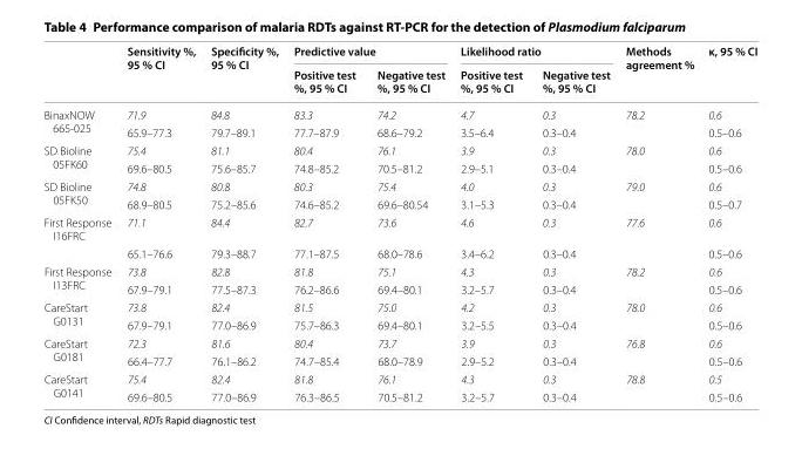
<table><thead><tr><td rowspan="2"></td><td rowspan="2">Sensitivity %, 95 % CI</td><td rowspan="2">Specificity %, 95 % CI</td><td colspan="2">Predictive value</td><td colspan="2">Likelihood ratio</td><td rowspan="2">Methods agreement %</td><td rowspan="2">κ, 95 % CI</td></tr><tr><td>Positive test %, 95 % CI</td><td>Negative test %, 95 % CI</td><td>Positive test %, 95 % CI</td><td>Negative test %, 95 % CI</td></tr></thead><tbody><tr><td rowspan="2">BinaxNOW 665-025</td><td>71.9</td><td>84.8</td><td>83.3</td><td>74.2</td><td>4.7</td><td>0.3</td><td rowspan="2">78.2</td><td>0.6</td></tr><tr><td>65.9–77.3</td><td>79.7–89.1</td><td>77.7–87.9</td><td>68.6–79.2</td><td>3.5–6.4</td><td>0.3–0.4</td><td>0.5–0.6</td></tr><tr><td rowspan="2">SD Bioline 05FK60</td><td>75.4</td><td>81.1</td><td>80.4</td><td>76.1</td><td>3.9</td><td>0.3</td><td rowspan="2">78.0</td><td>0.6</td></tr><tr><td>69.6–80.5</td><td>75.6–85.7</td><td>74.8–85.2</td><td>70.5–81.2</td><td>2.9–5.1</td><td>0.3–0.4</td><td>0.5–0.6</td></tr><tr><td rowspan="2">SD Bioline 05FK50</td><td>74.8</td><td>80.8</td><td>80.3</td><td>75.4</td><td>4.0</td><td>0.3</td><td rowspan="2">79.0</td><td>0.6</td></tr><tr><td>68.9–80.5</td><td>75.2–85.6</td><td>74.6–85.2</td><td>69.6–80.54</td><td>3.1–5.3</td><td>0.3–0.4</td><td>0.5–0.7</td></tr><tr><td rowspan="2">First Response I16FRC</td><td>71.1</td><td>84.4</td><td>82.7</td><td>73.6</td><td>4.6</td><td>0.3</td><td rowspan="2">77.6</td><td>0.6</td></tr><tr><td>65.1–76.6</td><td>79.3–88.7</td><td>77.1–87.5</td><td>68.0–78.6</td><td>3.4–6.2</td><td>0.3–0.4</td><td>0.5–0.6</td></tr><tr><td rowspan="2">First Response I13FRC</td><td>73.8</td><td>82.8</td><td>81.8</td><td>75.1</td><td>4.3</td><td>0.3</td><td rowspan="2">78.2</td><td>0.6</td></tr><tr><td>67.9–79.1</td><td>77.5–87.3</td><td>76.2–86.6</td><td>69.4–80.1</td><td>3.2–5.7</td><td>0.3–0.4</td><td>0.5–0.6</td></tr><tr><td rowspan="2">CareStart G0131</td><td>73.8</td><td>82.4</td><td>81.5</td><td>75.0</td><td>4.2</td><td>0.3</td><td rowspan="2">78.0</td><td>0.6</td></tr><tr><td>67.9–79.1</td><td>77.0–86.9</td><td>75.7–86.3</td><td>69.4–80.1</td><td>3.2–5.5</td><td>0.3–0.4</td><td>0.5–0.6</td></tr><tr><td rowspan="2">CareStart G0181</td><td>72.3</td><td>81.6</td><td>80.4</td><td>73.7</td><td>3.9</td><td>0.3</td><td rowspan="2">76.8</td><td>0.6</td></tr><tr><td>66.4–77.7</td><td>76.1–86.2</td><td>74.7–85.4</td><td>68.0–78.9</td><td>2.9–5.2</td><td>0.3–0.4</td><td>0.5–0.6</td></tr><tr><td rowspan="2">CareStart G0141</td><td>75.4</td><td>82.4</td><td>81.8</td><td>76.1</td><td>4.3</td><td>0.3</td><td rowspan="2">78.8</td><td>0.5</td></tr><tr><td>69.6–80.5</td><td>77.0–86.9</td><td>76.3–86.5</td><td>70.5–81.2</td><td>3.2–5.7</td><td>0.3–0.4</td><td>0.5–0.6</td></tr></tbody></table>